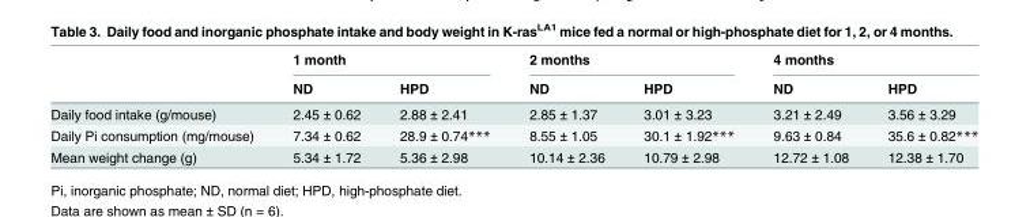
<table><thead><tr><td rowspan="2"></td><td colspan="2">1 month</td><td colspan="2">2 months</td><td colspan="2">4 months</td></tr><tr><td>ND</td><td>HPD</td><td>ND</td><td>HPD</td><td>ND</td><td>HPD</td></tr></thead><tbody><tr><td>Daily food intake (g/mouse)</td><td>2.45 ± 0.62</td><td>2.88 ± 2.41</td><td>2.85 ± 1.37</td><td>3.01 ± 3.23</td><td>3.21 ± 2.49</td><td>3.56 ± 3.29</td></tr><tr><td>Daily Pi consumption (mg/mouse)</td><td>7.34 ± 0.62</td><td>28.9 ± 0.74***</td><td>8.55 ± 1.05</td><td>30.1 ± 1.92***</td><td>9.63 ± 0.84</td><td>35.6 ± 0.82***</td></tr><tr><td>Mean weight change (g)</td><td>5.34 ± 1.72</td><td>5.36 ± 2.98</td><td>10.14 ± 2.36</td><td>10.79 ± 2.98</td><td>12.72 ± 1.08</td><td>12.38 ± 1.70</td></tr></tbody></table>